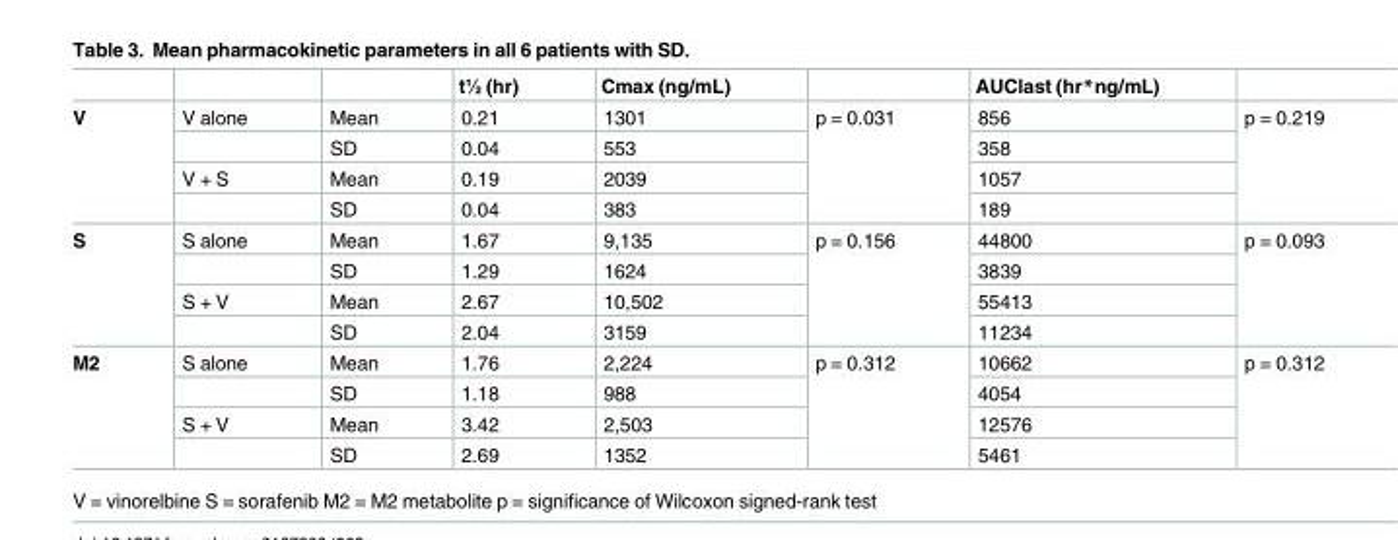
<table><thead><tr><td></td><td></td><td></td><td>t½ (hr)</td><td>Cmax (ng/mL)</td><td></td><td>AUClast (hr*ng/mL)</td><td></td></tr></thead><tbody><tr><td rowspan="4">V</td><td>V alone</td><td>Mean</td><td>0.21</td><td>1301</td><td rowspan="4">p = 0.031</td><td>856</td><td rowspan="4">p = 0.219</td></tr><tr><td></td><td>SD</td><td>0.04</td><td>553</td><td>358</td></tr><tr><td>V + S</td><td>Mean</td><td>0.19</td><td>2039</td><td>1057</td></tr><tr><td></td><td>SD</td><td>0.04</td><td>383</td><td>189</td></tr><tr><td rowspan="4">S</td><td>S alone</td><td>Mean</td><td>1.67</td><td>9,135</td><td rowspan="4">p = 0.156</td><td>44800</td><td rowspan="4">p = 0.093</td></tr><tr><td></td><td>SD</td><td>1.29</td><td>1624</td><td>3839</td></tr><tr><td>S + V</td><td>Mean</td><td>2.67</td><td>10,502</td><td>55413</td></tr><tr><td></td><td>SD</td><td>2.04</td><td>3159</td><td>11234</td></tr><tr><td rowspan="4">M2</td><td>S alone</td><td>Mean</td><td>1.76</td><td>2,224</td><td rowspan="4">p = 0.312</td><td>10662</td><td rowspan="4">p = 0.312</td></tr><tr><td></td><td>SD</td><td>1.18</td><td>988</td><td>4054</td></tr><tr><td>S + V</td><td>Mean</td><td>3.42</td><td>2,503</td><td>12576</td></tr><tr><td></td><td>SD</td><td>2.69</td><td>1352</td><td>5461</td></tr></tbody></table>